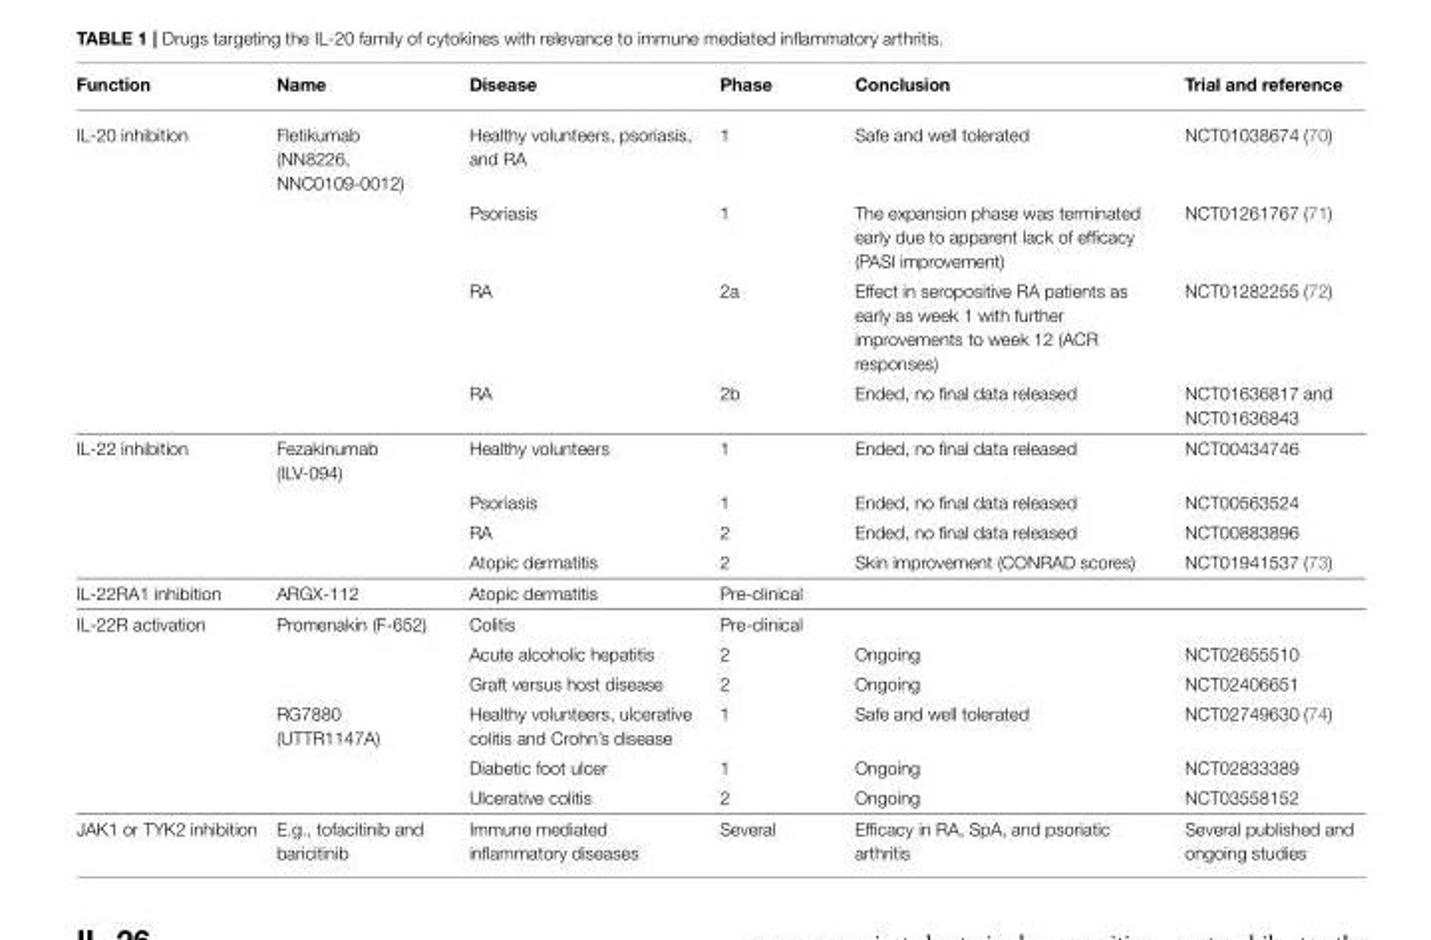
<table><thead><tr><td>Function</td><td>Name</td><td>Disease</td><td>Phase</td><td>Conclusion</td><td>Trial and reference</td></tr></thead><tbody><tr><td rowspan="4">IL-20 inhibition</td><td>Fletikumab (NN8226, NNC0109-0012)</td><td>Healthy volunteers, psoriasis, and RA</td><td>1</td><td>Safe and well tolerated</td><td>NCT01038674 (70)</td></tr><tr><td></td><td>Psoriasis</td><td>1</td><td>The expansion phase was terminated early due to apparent lack of efficacy (PASI improvement)</td><td>NCT01261767 (71)</td></tr><tr><td></td><td>RA</td><td>2a</td><td>Effect in seropositive RA patients as early as week 1 with further improvements to week 12 (ACR responses)</td><td>NCT01282255 (72)</td></tr><tr><td></td><td>RA</td><td>2b</td><td>Ended, no final data released</td><td>NCT01636817 and NCT01636843</td></tr><tr><td rowspan="4">IL-22 inhibition</td><td>Fezakinumab (ILV-094)</td><td>Healthy volunteers</td><td>1</td><td>Ended, no final data released</td><td>NCT00434746</td></tr><tr><td></td><td>Psoriasis</td><td>1</td><td>Ended, no final data released</td><td>NCT00563524</td></tr><tr><td></td><td>RA</td><td>2</td><td>Ended, no final data released</td><td>NCT00883896</td></tr><tr><td></td><td>Atopic dermatitis</td><td>2</td><td>Skin improvement (CONRAD scores)</td><td>NCT01941537 (73)</td></tr><tr><td>IL-22RA1 inhibition</td><td>ARGX-112</td><td>Atopic dermatitis</td><td>Pre-clinical</td><td></td><td></td></tr><tr><td rowspan="6">IL-22R activation</td><td>Promenakin (F-652)</td><td>Colitis</td><td>Pre-clinical</td><td></td><td></td></tr><tr><td></td><td>Acute alcoholic hepatitis</td><td>2</td><td>Ongoing</td><td>NCT02655510</td></tr><tr><td></td><td>Graft versus host disease</td><td>2</td><td>Ongoing</td><td>NCT02406651</td></tr><tr><td>RG7880 (UTTR1147A)</td><td>Healthy volunteers, ulcerative colitis and Crohn’s disease</td><td>1</td><td>Safe and well tolerated</td><td>NCT02749630 (74)</td></tr><tr><td></td><td>Diabetic foot ulcer</td><td>1</td><td>Ongoing</td><td>NCT02833389</td></tr><tr><td></td><td>Ulcerative colitis</td><td>2</td><td>Ongoing</td><td>NCT03558152</td></tr><tr><td>JAK1 or TYK2 inhibition</td><td>E.g., tofacitinib and baricitinib</td><td>Immune mediated inflammatory diseases</td><td>Several</td><td>Efficacy in RA, SpA, and psoriatic arthritis</td><td>Several published and ongoing studies</td></tr></tbody></table>